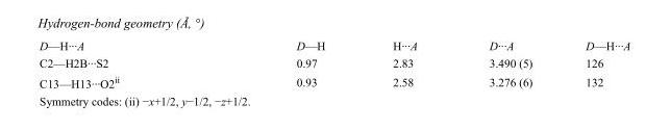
<table><tbody><tr><td>D—H···A</td><td>D—H</td><td>H···A</td><td>D···A</td><td>D—H···A</td></tr><tr><td>C2—H2B···S2</td><td>0.97</td><td>2.83</td><td>3.490 (5)</td><td>126</td></tr><tr><td>C13—H13···O2<sup>ii</sup></td><td>0.93</td><td>2.58</td><td>3.276 (6)</td><td>132</td></tr></tbody></table>